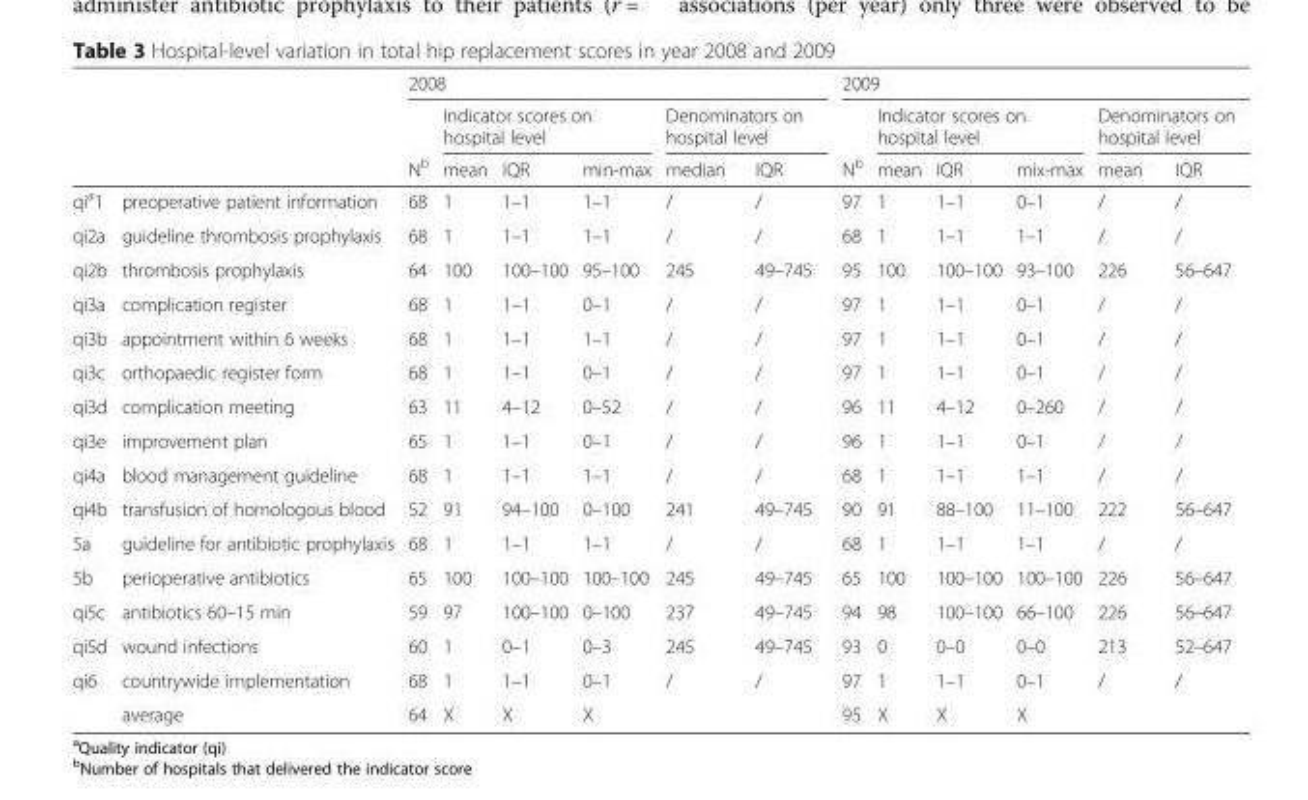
<table><thead><tr><td rowspan="3"></td><td rowspan="3"></td><td colspan="6">2008</td><td colspan="6">2009</td></tr><tr><td rowspan="2">N<sup>b</sup></td><td colspan="3">Indicator scores on hospital level</td><td colspan="2">Denominators on hospital level</td><td rowspan="2">N<sup>b</sup></td><td colspan="3">Indicator scores on hospital level</td><td colspan="2">Denominators on hospital level</td></tr><tr><td>mean</td><td>IQR</td><td>min-max</td><td>median</td><td>IQR</td><td>mean</td><td>IQR</td><td>mix-max</td><td>mean</td><td>IQR</td></tr></thead><tbody><tr><td>qi<sup>a</sup>1</td><td>preoperative patient information</td><td>68</td><td>1</td><td>1–1</td><td>1–1</td><td>/</td><td>/</td><td>97</td><td>1</td><td>1–1</td><td>0–1</td><td>/</td><td>/</td></tr><tr><td>qi2a</td><td>guideline thrombosis prophylaxis</td><td>68</td><td>1</td><td>1–1</td><td>1–1</td><td>/</td><td>/</td><td>68</td><td>1</td><td>1–1</td><td>1–1</td><td>/</td><td>/</td></tr><tr><td>qi2b</td><td>thrombosis prophylaxis</td><td>64</td><td>100</td><td>100–100</td><td>95–100</td><td>245</td><td>49–745</td><td>95</td><td>100</td><td>100–100</td><td>93–100</td><td>226</td><td>56–647</td></tr><tr><td>qi3a</td><td>complication register</td><td>68</td><td>1</td><td>1–1</td><td>0–1</td><td>/</td><td>/</td><td>97</td><td>1</td><td>1–1</td><td>0–1</td><td>/</td><td>/</td></tr><tr><td>qi3b</td><td>appointment within 6 weeks</td><td>68</td><td>1</td><td>1–1</td><td>1–1</td><td>/</td><td>/</td><td>97</td><td>1</td><td>1–1</td><td>0–1</td><td>/</td><td>/</td></tr><tr><td>qi3c</td><td>orthopaedic register form</td><td>68</td><td>1</td><td>1–1</td><td>0–1</td><td>/</td><td>/</td><td>97</td><td>1</td><td>1–1</td><td>0–1</td><td>/</td><td>/</td></tr><tr><td>qi3d</td><td>complication meeting</td><td>63</td><td>11</td><td>4–12</td><td>0–52</td><td>/</td><td>/</td><td>96</td><td>11</td><td>4–12</td><td>0–260</td><td>/</td><td>/</td></tr><tr><td>qi3e</td><td>improvement plan</td><td>65</td><td>1</td><td>1–1</td><td>0–1</td><td>/</td><td>/</td><td>96</td><td>1</td><td>1–1</td><td>0–1</td><td>/</td><td>/</td></tr><tr><td>qi4a</td><td>blood management guideline</td><td>68</td><td>1</td><td>1–1</td><td>1–1</td><td>/</td><td>/</td><td>68</td><td>1</td><td>1–1</td><td>1–1</td><td>/</td><td>/</td></tr><tr><td>qi4b</td><td>transfusion of homologous blood</td><td>52</td><td>91</td><td>94–100</td><td>0–100</td><td>241</td><td>49–745</td><td>90</td><td>91</td><td>88–100</td><td>11–100</td><td>222</td><td>56–647</td></tr><tr><td>5a</td><td>guideline for antibiotic prophylaxis</td><td>68</td><td>1</td><td>1–1</td><td>1–1</td><td>/</td><td>/</td><td>68</td><td>1</td><td>1–1</td><td>1–1</td><td>/</td><td>/</td></tr><tr><td>5b</td><td>perioperative antibiotics</td><td>65</td><td>100</td><td>100–100</td><td>100–100</td><td>245</td><td>49–745</td><td>65</td><td>100</td><td>100–100</td><td>100–100</td><td>226</td><td>56–647</td></tr><tr><td>qi5c</td><td>antibiotics 60–15 min</td><td>59</td><td>97</td><td>100–100</td><td>0–100</td><td>237</td><td>49–745</td><td>94</td><td>98</td><td>100–100</td><td>66–100</td><td>226</td><td>56–647</td></tr><tr><td>qi5d</td><td>wound infections</td><td>60</td><td>1</td><td>0–1</td><td>0–3</td><td>245</td><td>49–745</td><td>93</td><td>0</td><td>0–0</td><td>0–0</td><td>213</td><td>52–647</td></tr><tr><td rowspan="2">qi6</td><td>countrywide implementation</td><td>68</td><td>1</td><td>1–1</td><td>0–1</td><td>/</td><td>/</td><td>97</td><td>1</td><td>1–1</td><td>0–1</td><td>/</td><td>/</td></tr><tr><td>average</td><td>64</td><td>X</td><td>X</td><td>X</td><td></td><td></td><td>95</td><td>X</td><td>X</td><td>X</td><td></td><td></td></tr></tbody></table>